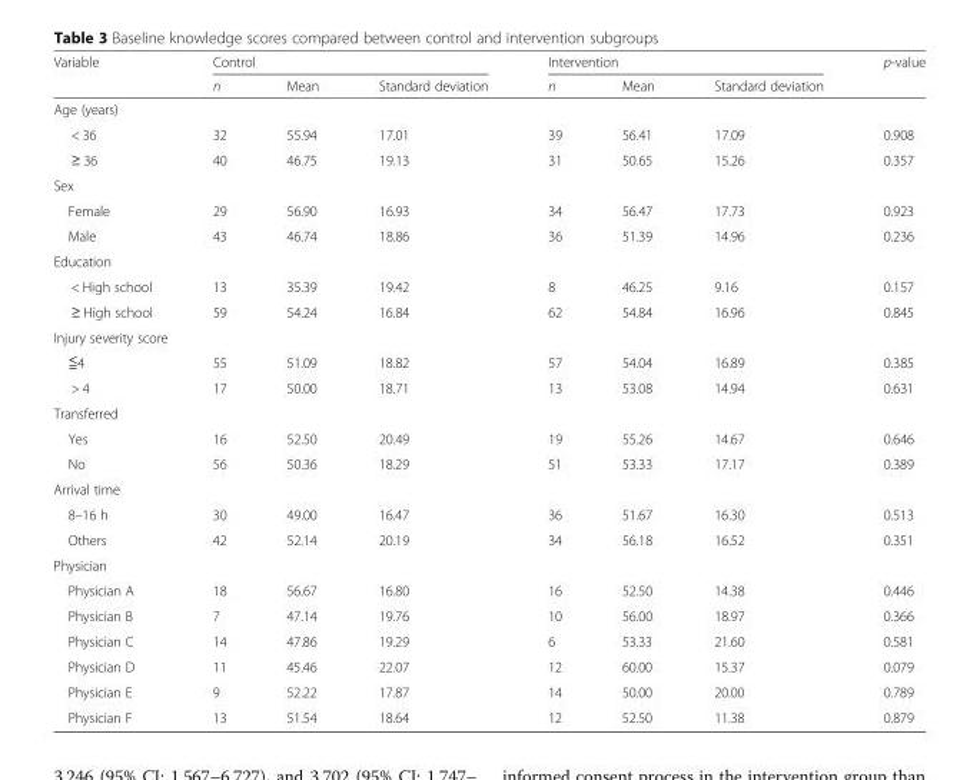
<table><thead><tr><td rowspan="2">Variable</td><td colspan="3">Control</td><td colspan="3">Intervention</td><td rowspan="2">p-value</td></tr><tr><td>n</td><td>Mean</td><td>Standard deviation</td><td>n</td><td>Mean</td><td>Standard deviation</td></tr></thead><tbody><tr><td colspan="8">Age (years)</td></tr><tr><td>&lt; 36</td><td>32</td><td>55.94</td><td>17.01</td><td>39</td><td>56.41</td><td>17.09</td><td>0.908</td></tr><tr><td>≥ 36</td><td>40</td><td>46.75</td><td>19.13</td><td>31</td><td>50.65</td><td>15.26</td><td>0.357</td></tr><tr><td colspan="8">Sex</td></tr><tr><td>Female</td><td>29</td><td>56.90</td><td>16.93</td><td>34</td><td>56.47</td><td>17.73</td><td>0.923</td></tr><tr><td>Male</td><td>43</td><td>46.74</td><td>18.86</td><td>36</td><td>51.39</td><td>14.96</td><td>0.236</td></tr><tr><td colspan="8">Education</td></tr><tr><td>&lt; High school</td><td>13</td><td>35.39</td><td>19.42</td><td>8</td><td>46.25</td><td>9.16</td><td>0.157</td></tr><tr><td>≥ High school</td><td>59</td><td>54.24</td><td>16.84</td><td>62</td><td>54.84</td><td>16.96</td><td>0.845</td></tr><tr><td colspan="8">Injury severity score</td></tr><tr><td>≦4</td><td>55</td><td>51.09</td><td>18.82</td><td>57</td><td>54.04</td><td>16.89</td><td>0.385</td></tr><tr><td>&gt; 4</td><td>17</td><td>50.00</td><td>18.71</td><td>13</td><td>53.08</td><td>14.94</td><td>0.631</td></tr><tr><td colspan="8">Transferred</td></tr><tr><td>Yes</td><td>16</td><td>52.50</td><td>20.49</td><td>19</td><td>55.26</td><td>14.67</td><td>0.646</td></tr><tr><td>No</td><td>56</td><td>50.36</td><td>18.29</td><td>51</td><td>53.33</td><td>17.17</td><td>0.389</td></tr><tr><td colspan="8">Arrival time</td></tr><tr><td>8–16 h</td><td>30</td><td>49.00</td><td>16.47</td><td>36</td><td>51.67</td><td>16.30</td><td>0.513</td></tr><tr><td>Others</td><td>42</td><td>52.14</td><td>20.19</td><td>34</td><td>56.18</td><td>16.52</td><td>0.351</td></tr><tr><td colspan="8">Physician</td></tr><tr><td>Physician A</td><td>18</td><td>56.67</td><td>16.80</td><td>16</td><td>52.50</td><td>14.38</td><td>0.446</td></tr><tr><td>Physician B</td><td>7</td><td>47.14</td><td>19.76</td><td>10</td><td>56.00</td><td>18.97</td><td>0.366</td></tr><tr><td>Physician C</td><td>14</td><td>47.86</td><td>19.29</td><td>6</td><td>53.33</td><td>21.60</td><td>0.581</td></tr><tr><td>Physician D</td><td>11</td><td>45.46</td><td>22.07</td><td>12</td><td>60.00</td><td>15.37</td><td>0.079</td></tr><tr><td>Physician E</td><td>9</td><td>52.22</td><td>17.87</td><td>14</td><td>50.00</td><td>20.00</td><td>0.789</td></tr><tr><td>Physician F</td><td>13</td><td>51.54</td><td>18.64</td><td>12</td><td>52.50</td><td>11.38</td><td>0.879</td></tr></tbody></table>